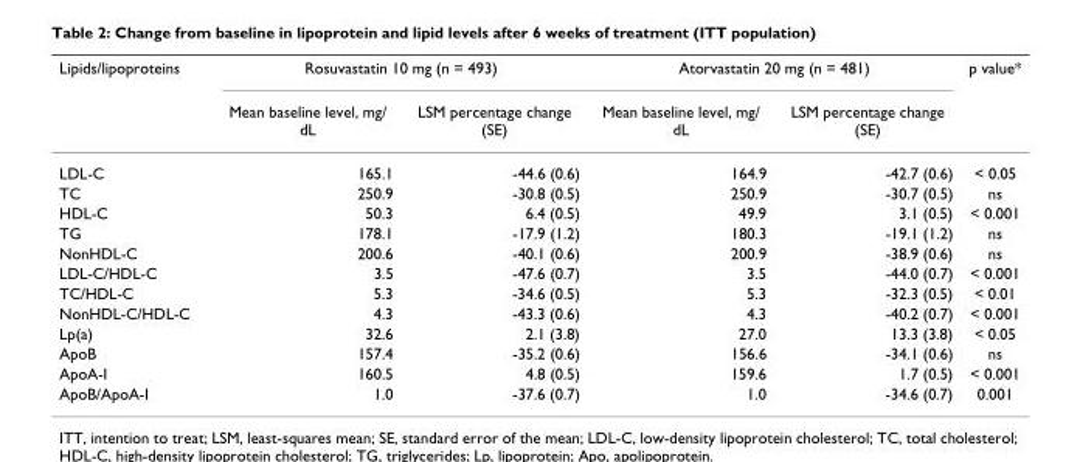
<table><thead><tr><td rowspan="2">Lipids/lipoproteins</td><td colspan="2">Rosuvastatin 10 mg (n = 493)</td><td colspan="2">Atorvastatin 20 mg (n = 481)</td><td rowspan="2">p value*</td></tr><tr><td>Mean baseline level, mg/ dL</td><td>LSM percentage change (SE)</td><td>Mean baseline level, mg/ dL</td><td>LSM percentage change (SE)</td></tr></thead><tbody><tr><td>LDL-C</td><td>165.1</td><td>-44.6 (0.6)</td><td>164.9</td><td>-42.7 (0.6)</td><td>&lt; 0.05</td></tr><tr><td>TC</td><td>250.9</td><td>-30.8 (0.5)</td><td>250.9</td><td>-30.7 (0.5)</td><td>ns</td></tr><tr><td>HDL-C</td><td>50.3</td><td>6.4 (0.5)</td><td>49.9</td><td>3.1 (0.5)</td><td>&lt; 0.001</td></tr><tr><td>TG</td><td>178.1</td><td>-17.9 (1.2)</td><td>180.3</td><td>-19.1 (1.2)</td><td>ns</td></tr><tr><td>NonHDL-C</td><td>200.6</td><td>-40.1 (0.6)</td><td>200.9</td><td>-38.9 (0.6)</td><td>ns</td></tr><tr><td>LDL-C/HDL-C</td><td>3.5</td><td>-47.6 (0.7)</td><td>3.5</td><td>-44.0 (0.7)</td><td>&lt; 0.001</td></tr><tr><td>TC/HDL-C</td><td>5.3</td><td>-34.6 (0.5)</td><td>5.3</td><td>-32.3 (0.5)</td><td>&lt; 0.01</td></tr><tr><td>NonHDL-C/HDL-C</td><td>4.3</td><td>-43.3 (0.6)</td><td>4.3</td><td>-40.2 (0.7)</td><td>&lt; 0.001</td></tr><tr><td>Lp(a)</td><td>32.6</td><td>2.1 (3.8)</td><td>27.0</td><td>13.3 (3.8)</td><td>&lt; 0.05</td></tr><tr><td>ApoB</td><td>157.4</td><td>-35.2 (0.6)</td><td>156.6</td><td>-34.1 (0.6)</td><td>ns</td></tr><tr><td>ApoA-I</td><td>160.5</td><td>4.8 (0.5)</td><td>159.6</td><td>1.7 (0.5)</td><td>&lt; 0.001</td></tr><tr><td>ApoB/ApoA-I</td><td>1.0</td><td>-37.6 (0.7)</td><td>1.0</td><td>-34.6 (0.7)</td><td>0.001</td></tr></tbody></table>